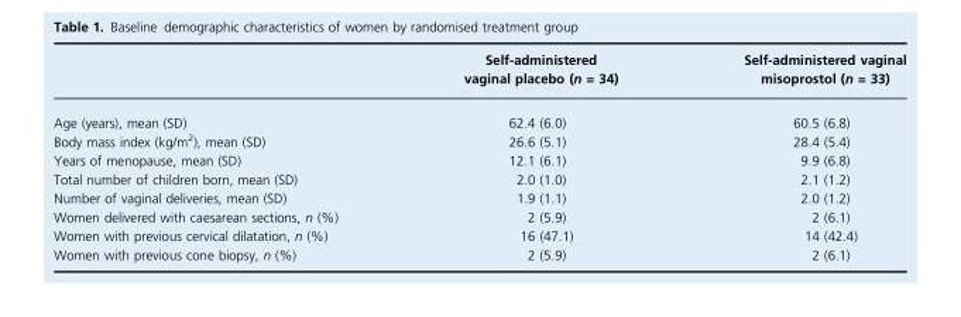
<table><thead><tr><td></td><td>Self-administered vaginal placebo (n = 34)</td><td>Self-administered vaginal misoprostol (n = 33)</td></tr></thead><tbody><tr><td>Age (years), mean (SD)</td><td>62.4 (6.0)</td><td>60.5 (6.8)</td></tr><tr><td>Body mass index (kg/m<sup>2</sup>), mean (SD)</td><td>26.6 (5.1)</td><td>28.4 (5.4)</td></tr><tr><td>Years of menopause, mean (SD)</td><td>12.1 (6.1)</td><td>9.9 (6.8)</td></tr><tr><td>Total number of children born, mean (SD)</td><td>2.0 (1.0)</td><td>2.1 (1.2)</td></tr><tr><td>Number of vaginal deliveries, mean (SD)</td><td>1.9 (1.1)</td><td>2.0 (1.2)</td></tr><tr><td>Women delivered with caesarean sections, n (%)</td><td>2 (5.9)</td><td>2 (6.1)</td></tr><tr><td>Women with previous cervical dilatation, n (%)</td><td>16 (47.1)</td><td>14 (42.4)</td></tr><tr><td>Women with previous cone biopsy, n (%)</td><td>2 (5.9)</td><td>2 (6.1)</td></tr></tbody></table>